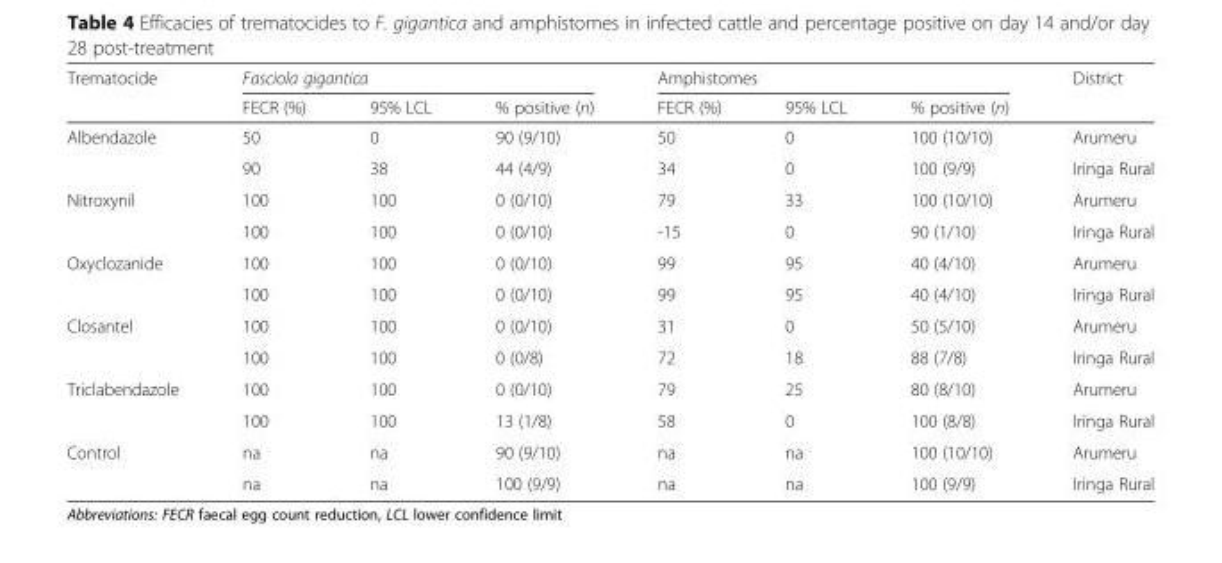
<table><thead><tr><td rowspan="2">Trematocide</td><td colspan="3">Fasciola gigantica</td><td colspan="3">Amphistomes</td><td rowspan="2">District</td></tr><tr><td>FECR (%)</td><td>95% LCL</td><td>% positive (n)</td><td>FECR (%)</td><td>95% LCL</td><td>% positive (n)</td></tr></thead><tbody><tr><td rowspan="2">Albendazole</td><td>50</td><td>0</td><td>90 (9/10)</td><td>50</td><td>0</td><td>100 (10/10)</td><td>Arumeru</td></tr><tr><td>90</td><td>38</td><td>44 (4/9)</td><td>34</td><td>0</td><td>100 (9/9)</td><td>Iringa Rural</td></tr><tr><td rowspan="2">Nitroxynil</td><td>100</td><td>100</td><td>0 (0/10)</td><td>79</td><td>33</td><td>100 (10/10)</td><td>Arumeru</td></tr><tr><td>100</td><td>100</td><td>0 (0/10)</td><td>-15</td><td>0</td><td>90 (1/10)</td><td>Iringa Rural</td></tr><tr><td rowspan="2">Oxyclozanide</td><td>100</td><td>100</td><td>0 (0/10)</td><td>99</td><td>95</td><td>40 (4/10)</td><td>Arumeru</td></tr><tr><td>100</td><td>100</td><td>0 (0/10)</td><td>99</td><td>95</td><td>40 (4/10)</td><td>Iringa Rural</td></tr><tr><td rowspan="2">Closantel</td><td>100</td><td>100</td><td>0 (0/10)</td><td>31</td><td>0</td><td>50 (5/10)</td><td>Arumeru</td></tr><tr><td>100</td><td>100</td><td>0 (0/8)</td><td>72</td><td>18</td><td>88 (7/8)</td><td>Iringa Rural</td></tr><tr><td rowspan="2">Triclabendazole</td><td>100</td><td>100</td><td>0 (0/10)</td><td>79</td><td>25</td><td>80 (8/10)</td><td>Arumeru</td></tr><tr><td>100</td><td>100</td><td>13 (1/8)</td><td>58</td><td>0</td><td>100 (8/8)</td><td>Iringa Rural</td></tr><tr><td rowspan="2">Control</td><td>na</td><td>na</td><td>90 (9/10)</td><td>na</td><td>na</td><td>100 (10/10)</td><td>Arumeru</td></tr><tr><td>na</td><td>na</td><td>100 (9/9)</td><td>na</td><td>na</td><td>100 (9/9)</td><td>Iringa Rural</td></tr></tbody></table>